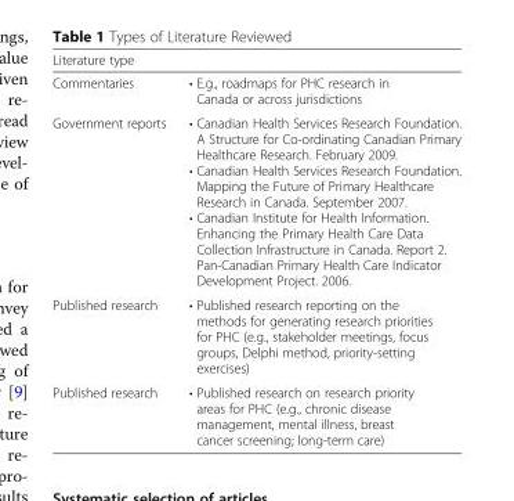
<table><thead><tr><td colspan="2">Literature type</td></tr><tr><td>Commentaries</td><td>• E.g., roadmaps for PHC research in Canada or across jurisdictions</td></tr></thead><tbody><tr><td>Government reports</td><td>• Canadian Health Services Research Foundation. A Structure for Co-ordinating Canadian Primary Healthcare Research. February 2009. • Canadian Health Services Research Foundation. Mapping the Future of Primary Healthcare Research in Canada. September 2007. • Canadian Institute for Health Information. Enhancing the Primary Health Care Data Collection Infrastructure in Canada. Report 2. Pan-Canadian Primary Health Care Indicator Development Project. 2006.</td></tr><tr><td>Published research</td><td>• Published research reporting on the methods for generating research priorities for PHC (e.g., stakeholder meetings, focus groups, Delphi method, priority-setting exercises)</td></tr><tr><td>Published research</td><td>• Published research on research priority areas for PHC (e.g., chronic disease management, mental illness, breast cancer screening; long-term care)</td></tr></tbody></table>